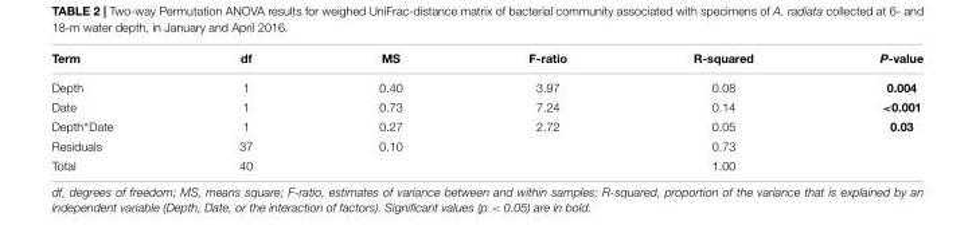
<table><thead><tr><td>Term</td><td>df</td><td>MS</td><td>F-ratio</td><td>R-squared</td><td>P-value</td></tr></thead><tbody><tr><td>Depth</td><td>1</td><td>0.40</td><td>3.97</td><td>0.08</td><td>0.004</td></tr><tr><td>Date</td><td>1</td><td>0.73</td><td>7.24</td><td>0.14</td><td>&lt;0.001</td></tr><tr><td>Depth∗Date</td><td>1</td><td>0.27</td><td>2.72</td><td>0.05</td><td>0.03</td></tr><tr><td>Residuals</td><td>37</td><td>0.10</td><td></td><td>0.73</td><td></td></tr><tr><td>Total</td><td>40</td><td></td><td></td><td>1.00</td><td></td></tr></tbody></table>